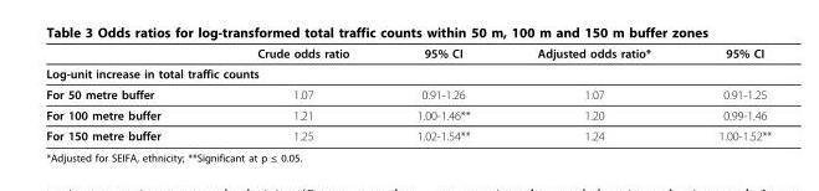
<table><thead><tr><td></td><td>Crude odds ratio</td><td>95% CI</td><td>Adjusted odds ratio*</td><td>95% CI</td></tr></thead><tbody><tr><td colspan="5">Log-unit increase in total traffic counts</td></tr><tr><td>For 50 metre buffer</td><td>1.07</td><td>0.91-1.26</td><td>1.07</td><td>0.91-1.25</td></tr><tr><td>For 100 metre buffer</td><td>1.21</td><td>1.00-1.46**</td><td>1.20</td><td>0.99-1.46</td></tr><tr><td>For 150 metre buffer</td><td>1.25</td><td>1.02-1.54**</td><td>1.24</td><td>1.00-1.52**</td></tr></tbody></table>